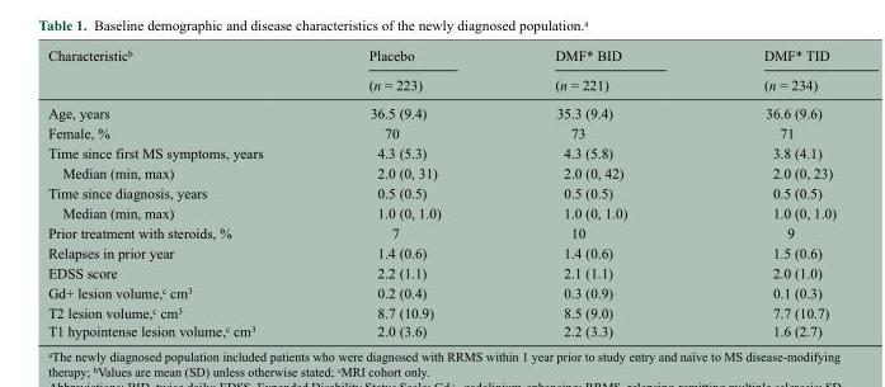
<table><thead><tr><td rowspan="2">Characteristic<sup>b</sup></td><td rowspan="2">Placebo (n = 223)</td><td rowspan="2">DMF* BID (n = 221)</td><td rowspan="2">DMF* TID (n = 234)</td></tr><tr></tr></thead><tbody><tr><td>Age, years</td><td>36.5 (9.4)</td><td>35.3 (9.4)</td><td>36.6 (9.6)</td></tr><tr><td>Female, %</td><td>70</td><td>73</td><td>71</td></tr><tr><td>Time since first MS symptoms, years</td><td>4.3 (5.3)</td><td>4.3 (5.8)</td><td>3.8 (4.1)</td></tr><tr><td>Median (min, max)</td><td>2.0 (0, 31)</td><td>2.0 (0, 42)</td><td>2.0 (0, 23)</td></tr><tr><td>Time since diagnosis, years</td><td>0.5 (0.5)</td><td>0.5 (0.5)</td><td>0.5 (0.5)</td></tr><tr><td>Median (min, max)</td><td>1.0 (0, 1.0)</td><td>1.0 (0, 1.0)</td><td>1.0 (0, 1.0)</td></tr><tr><td>Prior treatment with steroids, %</td><td>7</td><td>10</td><td>9</td></tr><tr><td>Relapses in prior year</td><td>1.4 (0.6)</td><td>1.4 (0.6)</td><td>1.5 (0.6)</td></tr><tr><td>EDSS score</td><td>2.2 (1.1)</td><td>2.1 (1.1)</td><td>2.0 (1.0)</td></tr><tr><td>Gd+ lesion volume,<sup>c</sup> cm<sup>3</sup></td><td>0.2 (0.4)</td><td>0.3 (0.9)</td><td>0.1 (0.3)</td></tr><tr><td>T2 lesion volume,<sup>c</sup> cm<sup>3</sup></td><td>8.7 (10.9)</td><td>8.5 (9.0)</td><td>7.7 (10.7)</td></tr><tr><td>T1 hypointense lesion volume,<sup>c</sup> cm<sup>3</sup></td><td>2.0 (3.6)</td><td>2.2 (3.3)</td><td>1.6 (2.7)</td></tr></tbody></table>